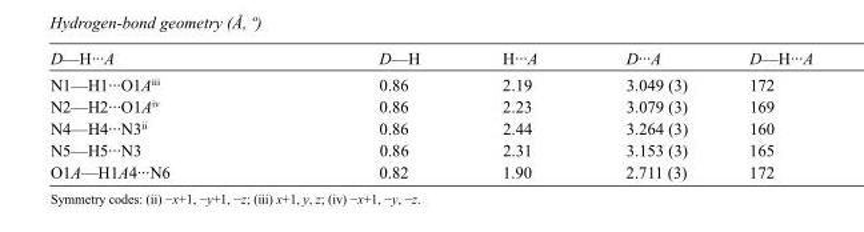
<table><tbody><tr><td>D—H···A</td><td>D—H</td><td>H···A</td><td>D···A</td><td>D—H···A</td></tr><tr><td>N1—H1···O1A<sup>iii</sup></td><td>0.86</td><td>2.19</td><td>3.049 (3)</td><td>172</td></tr><tr><td>N2—H2···O1A<sup>iv</sup></td><td>0.86</td><td>2.23</td><td>3.079 (3)</td><td>169</td></tr><tr><td>N4—H4···N3<sup>ii</sup></td><td>0.86</td><td>2.44</td><td>3.264 (3)</td><td>160</td></tr><tr><td>N5—H5···N3</td><td>0.86</td><td>2.31</td><td>3.153 (3)</td><td>165</td></tr><tr><td>O1A—H1A4···N6</td><td>0.82</td><td>1.90</td><td>2.711 (3)</td><td>172</td></tr></tbody></table>